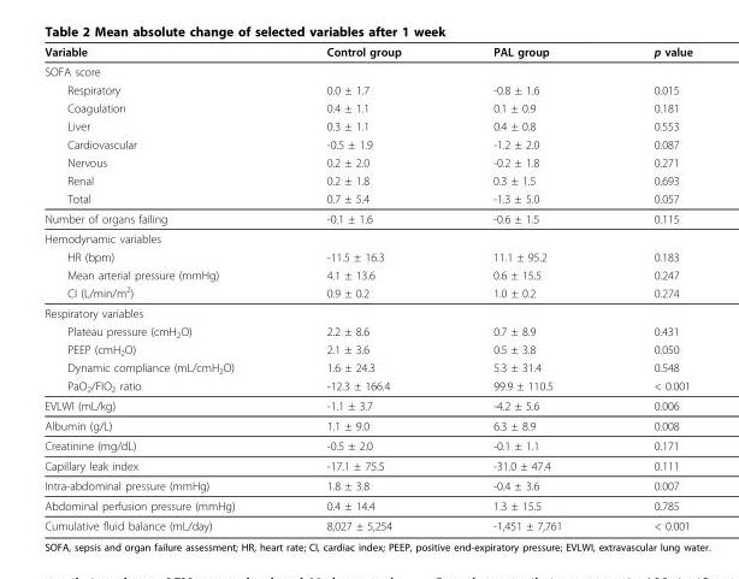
<table><thead><tr><td>Variable</td><td>Control group</td><td>PAL group</td><td>p value</td></tr></thead><tbody><tr><td colspan="4">SOFA score</td></tr><tr><td>Respiratory</td><td>0.0 ± 1.7</td><td>-0.8 ± 1.6</td><td>0.015</td></tr><tr><td>Coagulation</td><td>0.4 ± 1.1</td><td>0.1 ± 0.9</td><td>0.181</td></tr><tr><td>Liver</td><td>0.3 ± 1.1</td><td>0.4 ± 0.8</td><td>0.553</td></tr><tr><td>Cardiovascular</td><td>-0.5 ± 1.9</td><td>-1.2 ± 2.0</td><td>0.087</td></tr><tr><td>Nervous</td><td>0.2 ± 2.0</td><td>-0.2 ± 1.8</td><td>0.271</td></tr><tr><td>Renal</td><td>0.2 ± 1.8</td><td>0.3 ± 1.5</td><td>0.693</td></tr><tr><td>Total</td><td>0.7 ± 5.4</td><td>-1.3 ± 5.0</td><td>0.057</td></tr><tr><td>Number of organs failing</td><td>-0.1 ± 1.6</td><td>-0.6 ± 1.5</td><td>0.115</td></tr><tr><td colspan="4">Hemodynamic variables</td></tr><tr><td>HR (bpm)</td><td>-11.5 ± 16.3</td><td>11.1 ± 95.2</td><td>0.183</td></tr><tr><td>Mean arterial pressure (mmHg)</td><td>4.1 ± 13.6</td><td>0.6 ± 15.5</td><td>0.247</td></tr><tr><td>CI (L/min/m<sup>2</sup>)</td><td>0.9 ± 0.2</td><td>1.0 ± 0.2</td><td>0.274</td></tr><tr><td colspan="4">Respiratory variables</td></tr><tr><td>Plateau pressure (cmH<sub>2</sub>O)</td><td>2.2 ± 8.6</td><td>0.7 ± 8.9</td><td>0.431</td></tr><tr><td>PEEP (cmH<sub>2</sub>O)</td><td>2.1 ± 3.6</td><td>0.5 ± 3.8</td><td>0.050</td></tr><tr><td>Dynamic compliance (mL/cmH<sub>2</sub>O)</td><td>1.6 ± 24.3</td><td>5.3 ± 31.4</td><td>0.548</td></tr><tr><td>PaO<sub>2</sub>/FIO<sub>2</sub> ratio</td><td>-12.3 ± 166.4</td><td>99.9 ± 110.5</td><td>&lt; 0.001</td></tr><tr><td>EVLWI (mL/kg)</td><td>-1.1 ± 3.7</td><td>-4.2 ± 5.6</td><td>0.006</td></tr><tr><td>Albumin (g/L)</td><td>1.1 ± 9.0</td><td>6.3 ± 8.9</td><td>0.008</td></tr><tr><td>Creatinine (mg/dL)</td><td>-0.5 ± 2.0</td><td>-0.1 ± 1.1</td><td>0.171</td></tr><tr><td>Capillary leak index</td><td>-17.1 ± 75.5</td><td>-31.0 ± 47.4</td><td>0.111</td></tr><tr><td>Intra-abdominal pressure (mmHg)</td><td>1.8 ± 3.8</td><td>-0.4 ± 3.6</td><td>0.007</td></tr><tr><td>Abdominal perfusion pressure (mmHg)</td><td>0.4 ± 14.4</td><td>1.3 ± 15.5</td><td>0.785</td></tr><tr><td>Cumulative fluid balance (mL/day)</td><td>8,027 ± 5,254</td><td>-1,451 ± 7,761</td><td>&lt; 0.001</td></tr></tbody></table>